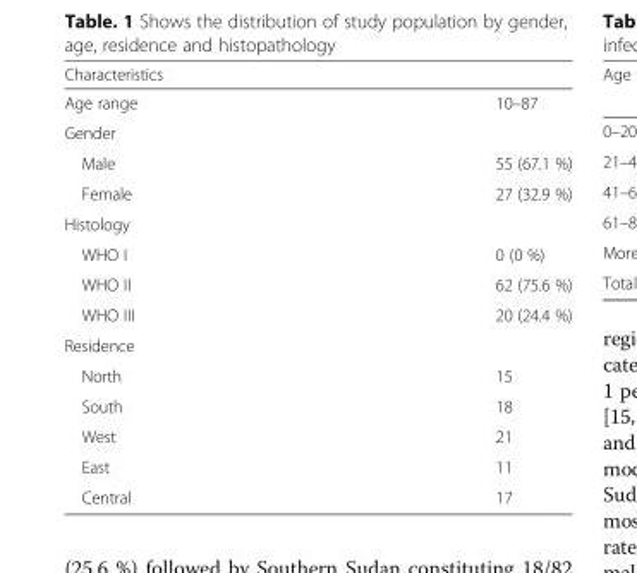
<table><thead><tr><td colspan="2">Characteristics</td></tr><tr><td>Age range</td><td>10–87</td></tr></thead><tbody><tr><td colspan="2">Gender</td></tr><tr><td>Male</td><td>55 (67.1 %)</td></tr><tr><td>Female</td><td>27 (32.9 %)</td></tr><tr><td colspan="2">Histology</td></tr><tr><td>WHO I</td><td>0 (0 %)</td></tr><tr><td>WHO II</td><td>62 (75.6 %)</td></tr><tr><td>WHO III</td><td>20 (24.4 %)</td></tr><tr><td colspan="2">Residence</td></tr><tr><td>North</td><td>15</td></tr><tr><td>South</td><td>18</td></tr><tr><td>West</td><td>21</td></tr><tr><td>East</td><td>11</td></tr><tr><td>Central</td><td>17</td></tr></tbody></table>